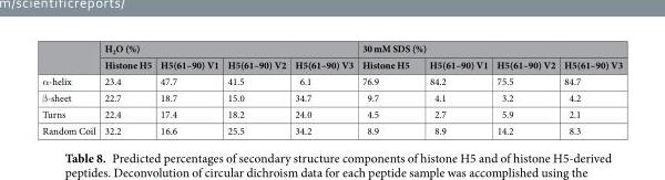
<table><thead><tr><td rowspan="2"></td><td colspan="4">H<sub>2</sub>O (%)</td><td colspan="4">30 mM SDS (%)</td></tr><tr><td>Histone H5</td><td>H5(61–90) V1</td><td>H5(61–90) V2</td><td>H5(61–90) V3</td><td>Histone H5</td><td>H5(61–90) V1</td><td>H5(61–90) V2</td><td>H5(61–90) V3</td></tr></thead><tbody><tr><td>α-helix</td><td>23.4</td><td>47.7</td><td>41.5</td><td>6.1</td><td>76.9</td><td>84.2</td><td>75.5</td><td>84.7</td></tr><tr><td>β-sheet</td><td>22.7</td><td>18.7</td><td>15.0</td><td>34.7</td><td>9.7</td><td>4.1</td><td>3.2</td><td>4.2</td></tr><tr><td>Turns</td><td>22.4</td><td>17.4</td><td>18.2</td><td>24.0</td><td>4.5</td><td>2.7</td><td>5.9</td><td>2.1</td></tr><tr><td>Random Coil</td><td>32.2</td><td>16.6</td><td>25.5</td><td>34.2</td><td>8.9</td><td>8.9</td><td>14.2</td><td>8.3</td></tr></tbody></table>